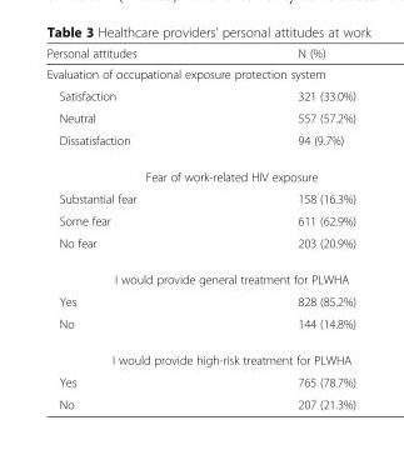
<table><thead><tr><td>Personal attitudes</td><td>N (%)</td></tr></thead><tbody><tr><td colspan="2">Evaluation of occupational exposure protection system</td></tr><tr><td>Satisfaction</td><td>321 (33.0%)</td></tr><tr><td>Neutral</td><td>557 (57.2%)</td></tr><tr><td>Dissatisfaction</td><td>94 (9.7%)</td></tr><tr><td colspan="2">Fear of work-related HIV exposure</td></tr><tr><td>Substantial fear</td><td>158 (16.3%)</td></tr><tr><td>Some fear</td><td>611 (62.9%)</td></tr><tr><td>No fear</td><td>203 (20.9%)</td></tr><tr><td colspan="2">I would provide general treatment for PLWHA</td></tr><tr><td>Yes</td><td>828 (85.2%)</td></tr><tr><td>No</td><td>144 (14.8%)</td></tr><tr><td colspan="2">I would provide high-risk treatment for PLWHA</td></tr><tr><td>Yes</td><td>765 (78.7%)</td></tr><tr><td>No</td><td>207 (21.3%)</td></tr></tbody></table>